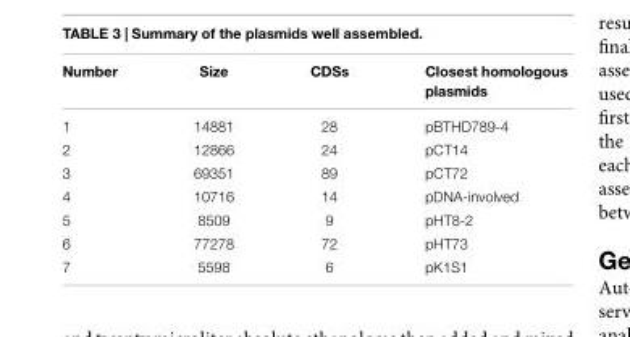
<table><thead><tr><td>Number</td><td>Size</td><td>CDSs</td><td>Closest homologous plasmids</td></tr></thead><tbody><tr><td>1</td><td>14881</td><td>28</td><td>pBTHD789-4</td></tr><tr><td>2</td><td>12866</td><td>24</td><td>pCT14</td></tr><tr><td>3</td><td>69351</td><td>89</td><td>pCT72</td></tr><tr><td>4</td><td>10716</td><td>14</td><td>pDNA-involved</td></tr><tr><td>5</td><td>8509</td><td>9</td><td>pHT8-2</td></tr><tr><td>6</td><td>77278</td><td>72</td><td>pHT73</td></tr><tr><td>7</td><td>5598</td><td>6</td><td>pK1S1</td></tr></tbody></table>